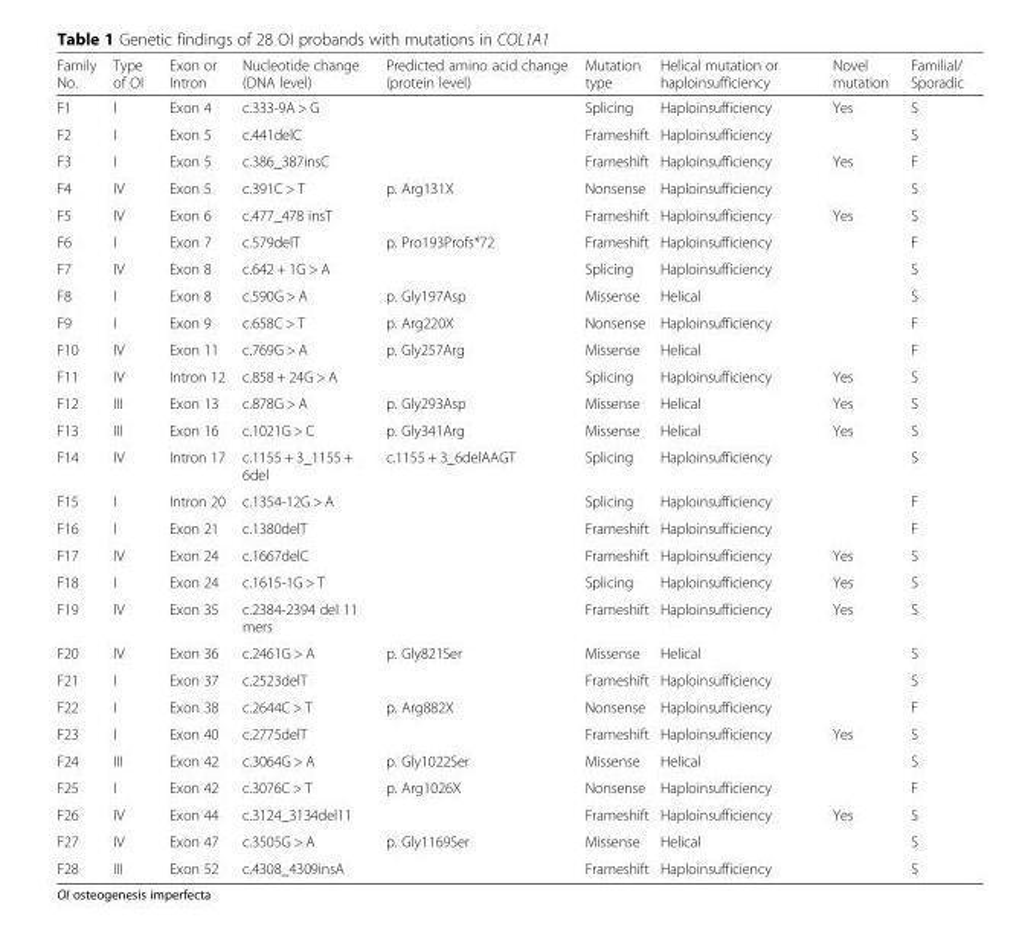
<table><thead><tr><td>Family No.</td><td>Type of OI</td><td>Exon or Intron</td><td>Nucleotide change (DNA level)</td><td>Predicted amino acid change (protein level)</td><td>Mutation type</td><td>Helical mutation or haploinsufficiency</td><td>Novel mutation</td><td>Familial/ Sporadic</td></tr></thead><tbody><tr><td>F1</td><td>I</td><td>Exon 4</td><td>c.333-9A &gt; G</td><td></td><td>Splicing</td><td>Haploinsufficiency</td><td>Yes</td><td>S</td></tr><tr><td>F2</td><td>I</td><td>Exon 5</td><td>c.441delC</td><td></td><td>Frameshift</td><td>Haploinsufficiency</td><td></td><td>S</td></tr><tr><td>F3</td><td>I</td><td>Exon 5</td><td>c.386_387insC</td><td></td><td>Frameshift</td><td>Haploinsufficiency</td><td>Yes</td><td>F</td></tr><tr><td>F4</td><td>IV</td><td>Exon 5</td><td>c.391C &gt; T</td><td>p. Arg131X</td><td>Nonsense</td><td>Haploinsufficiency</td><td></td><td>S</td></tr><tr><td>F5</td><td>IV</td><td>Exon 6</td><td>c.477_478 insT</td><td></td><td>Frameshift</td><td>Haploinsufficiency</td><td>Yes</td><td>S</td></tr><tr><td>F6</td><td>I</td><td>Exon 7</td><td>c.579delT</td><td>p. Pro193Profs*72</td><td>Frameshift</td><td>Haploinsufficiency</td><td></td><td>F</td></tr><tr><td>F7</td><td>IV</td><td>Exon 8</td><td>c.642 + 1G &gt; A</td><td></td><td>Splicing</td><td>Haploinsufficiency</td><td></td><td>S</td></tr><tr><td>F8</td><td>I</td><td>Exon 8</td><td>c.590G &gt; A</td><td>p. Gly197Asp</td><td>Missense</td><td>Helical</td><td></td><td>S</td></tr><tr><td>F9</td><td>I</td><td>Exon 9</td><td>c.658C &gt; T</td><td>p. Arg220X</td><td>Nonsense</td><td>Haploinsufficiency</td><td></td><td>F</td></tr><tr><td>F10</td><td>IV</td><td>Exon 11</td><td>c.769G &gt; A</td><td>p. Gly257Arg</td><td>Missense</td><td>Helical</td><td></td><td>F</td></tr><tr><td>F11</td><td>IV</td><td>Intron 12</td><td>c.858 + 24G &gt; A</td><td></td><td>Splicing</td><td>Haploinsufficiency</td><td>Yes</td><td>S</td></tr><tr><td>F12</td><td>III</td><td>Exon 13</td><td>c.878G &gt; A</td><td>p. Gly293Asp</td><td>Missense</td><td>Helical</td><td>Yes</td><td>S</td></tr><tr><td>F13</td><td>III</td><td>Exon 16</td><td>c.1021G &gt; C</td><td>p. Gly341Arg</td><td>Missense</td><td>Helical</td><td>Yes</td><td>S</td></tr><tr><td>F14</td><td>IV</td><td>Intron 17</td><td>c.1155 + 3_1155 + 6del</td><td>c.1155 + 3_6delAAGT</td><td>Splicing</td><td>Haploinsufficiency</td><td></td><td>S</td></tr><tr><td>F15</td><td>I</td><td>Intron 20</td><td>c.1354-12G &gt; A</td><td></td><td>Splicing</td><td>Haploinsufficiency</td><td></td><td>F</td></tr><tr><td>F16</td><td>I</td><td>Exon 21</td><td>c.1380delT</td><td></td><td>Frameshift</td><td>Haploinsufficiency</td><td></td><td>F</td></tr><tr><td>F17</td><td>IV</td><td>Exon 24</td><td>c.1667delC</td><td></td><td>Frameshift</td><td>Haploinsufficiency</td><td>Yes</td><td>S</td></tr><tr><td>F18</td><td>I</td><td>Exon 24</td><td>c.1615-1G &gt; T</td><td></td><td>Splicing</td><td>Haploinsufficiency</td><td>Yes</td><td>S</td></tr><tr><td>F19</td><td>IV</td><td>Exon 35</td><td>c.2384-2394 del 11 mers</td><td></td><td>Frameshift</td><td>Haploinsufficiency</td><td>Yes</td><td>S</td></tr><tr><td>F20</td><td>IV</td><td>Exon 36</td><td>c.2461G &gt; A</td><td>p. Gly821Ser</td><td>Missense</td><td>Helical</td><td></td><td>S</td></tr><tr><td>F21</td><td>I</td><td>Exon 37</td><td>c.2523delT</td><td></td><td>Frameshift</td><td>Haploinsufficiency</td><td></td><td>S</td></tr><tr><td>F22</td><td>I</td><td>Exon 38</td><td>c.2644C &gt; T</td><td>p. Arg882X</td><td>Nonsense</td><td>Haploinsufficiency</td><td></td><td>F</td></tr><tr><td>F23</td><td>I</td><td>Exon 40</td><td>c.2775delT</td><td></td><td>Frameshift</td><td>Haploinsufficiency</td><td>Yes</td><td>S</td></tr><tr><td>F24</td><td>III</td><td>Exon 42</td><td>c.3064G &gt; A</td><td>p. Gly1022Ser</td><td>Missense</td><td>Helical</td><td></td><td>S</td></tr><tr><td>F25</td><td>I</td><td>Exon 42</td><td>c.3076C &gt; T</td><td>p. Arg1026X</td><td>Nonsense</td><td>Haploinsufficiency</td><td></td><td>F</td></tr><tr><td>F26</td><td>IV</td><td>Exon 44</td><td>c.3124_3134del11</td><td></td><td>Frameshift</td><td>Haploinsufficiency</td><td>Yes</td><td>S</td></tr><tr><td>F27</td><td>IV</td><td>Exon 47</td><td>c.3505G &gt; A</td><td>p. Gly1169Ser</td><td>Missense</td><td>Helical</td><td></td><td>S</td></tr><tr><td>F28</td><td>III</td><td>Exon 52</td><td>c.4308_4309insA</td><td></td><td>Frameshift</td><td>Haploinsufficiency</td><td></td><td>S</td></tr></tbody></table>